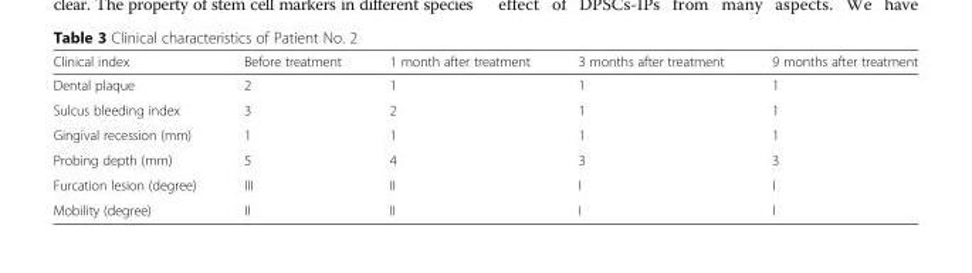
<table><thead><tr><td>Clinical index</td><td>Before treatment</td><td>1 month after treatment</td><td>3 months after treatment</td><td>9 months after treatment</td></tr></thead><tbody><tr><td>Dental plaque</td><td>2</td><td>1</td><td>1</td><td>1</td></tr><tr><td>Sulcus bleeding index</td><td>3</td><td>2</td><td>1</td><td>1</td></tr><tr><td>Gingival recession (mm)</td><td>1</td><td>1</td><td>1</td><td>1</td></tr><tr><td>Probing depth (mm)</td><td>5</td><td>4</td><td>3</td><td>3</td></tr><tr><td>Furcation lesion (degree)</td><td>III</td><td>II</td><td>I</td><td>I</td></tr><tr><td>Mobility (degree)</td><td>II</td><td>II</td><td>I</td><td>I</td></tr></tbody></table>